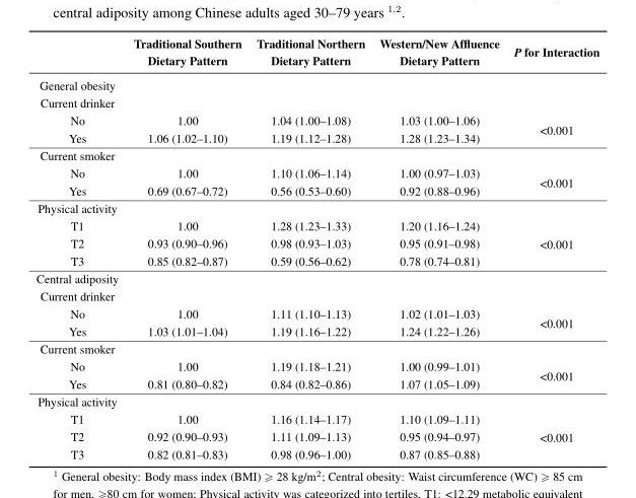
<table><thead><tr><td></td><td>Traditional Southern Dietary Pattern</td><td>Traditional Northern Dietary Pattern</td><td>Western/New Affluence Dietary Pattern</td><td>P for Interaction</td></tr></thead><tbody><tr><td colspan="5">General obesity</td></tr><tr><td colspan="5">Current drinker</td></tr><tr><td>No</td><td>1.00</td><td>1.04 (1.00–1.08)</td><td>1.03 (1.00–1.06)</td><td rowspan="2">&lt;0.001</td></tr><tr><td>Yes</td><td>1.06 (1.02–1.10)</td><td>1.19 (1.12–1.28)</td><td>1.28 (1.23–1.34)</td></tr><tr><td colspan="5">Current smoker</td></tr><tr><td>No</td><td>1.00</td><td>1.10 (1.06–1.14)</td><td>1.00 (0.97–1.03)</td><td rowspan="2">&lt;0.001</td></tr><tr><td>Yes</td><td>0.69 (0.67–0.72)</td><td>0.56 (0.53–0.60)</td><td>0.92 (0.88–0.96)</td></tr><tr><td colspan="5">Physical activity</td></tr><tr><td>T1</td><td>1.00</td><td>1.28 (1.23–1.33)</td><td>1.20 (1.16–1.24)</td><td rowspan="3">&lt;0.001</td></tr><tr><td>T2</td><td>0.93 (0.90–0.96)</td><td>0.98 (0.93–1.03)</td><td>0.95 (0.91–0.98)</td></tr><tr><td>T3</td><td>0.85 (0.82–0.87)</td><td>0.59 (0.56–0.62)</td><td>0.78 (0.74–0.81)</td></tr><tr><td colspan="5">Central adiposity</td></tr><tr><td colspan="5">Current drinker</td></tr><tr><td>No</td><td>1.00</td><td>1.11 (1.10–1.13)</td><td>1.02 (1.01–1.03)</td><td rowspan="2">&lt;0.001</td></tr><tr><td>Yes</td><td>1.03 (1.01–1.04)</td><td>1.19 (1.16–1.22)</td><td>1.24 (1.22–1.26)</td></tr><tr><td colspan="5">Current smoker</td></tr><tr><td>No</td><td>1.00</td><td>1.19 (1.18–1.21)</td><td>1.00 (0.99–1.01)</td><td rowspan="2">&lt;0.001</td></tr><tr><td>Yes</td><td>0.81 (0.80–0.82)</td><td>0.84 (0.82–0.86)</td><td>1.07 (1.05–1.09)</td></tr><tr><td colspan="5">Physical activity</td></tr><tr><td>T1</td><td>1.00</td><td>1.16 (1.14–1.17)</td><td>1.10 (1.09–1.11)</td><td rowspan="3">&lt;0.001</td></tr><tr><td>T2</td><td>0.92 (0.90–0.93)</td><td>1.11 (1.09–1.13)</td><td>0.95 (0.94–0.97)</td></tr><tr><td>T3</td><td>0.82 (0.81–0.83)</td><td>0.98 (0.96–1.00)</td><td>0.87 (0.85–0.88)</td></tr></tbody></table>